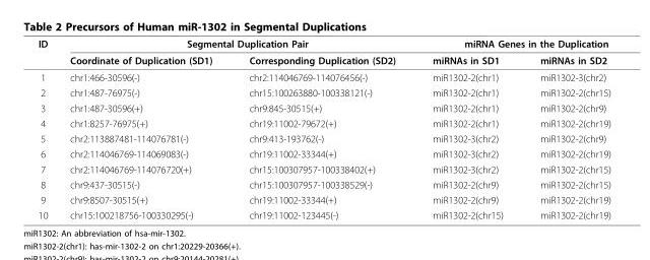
<table><thead><tr><td rowspan="2">ID</td><td colspan="2">Segmental Duplication Pair</td><td colspan="2">miRNA Genes in the Duplication</td></tr><tr><td>Coordinate of Duplication (SD1)</td><td>Corresponding Duplication (SD2)</td><td>miRNAs in SD1</td><td>miRNAs in SD2</td></tr></thead><tbody><tr><td>1</td><td>chr1:466-30596(-)</td><td>chr2:114046769-114076456(-)</td><td>miR1302-2(chr1)</td><td>miR1302-3(chr2)</td></tr><tr><td>2</td><td>chr1:487-76975(-)</td><td>chr15:100263880-100338121(-)</td><td>miR1302-2(chr1)</td><td>miR1302-2(chr15)</td></tr><tr><td>3</td><td>chr1:487-30596(+)</td><td>chr9:845-30515(+)</td><td>miR1302-2(chr1)</td><td>miR1302-2(chr9)</td></tr><tr><td>4</td><td>chr1:8257-76975(+)</td><td>chr19:11002-79672(+)</td><td>miR1302-2(chr1)</td><td>miR1302-2(chr19)</td></tr><tr><td>5</td><td>chr2:113887481-114076781(-)</td><td>chr9:413-193762(-)</td><td>miR1302-3(chr2)</td><td>miR1302-2(chr9)</td></tr><tr><td>6</td><td>chr2:114046769-114069083(-)</td><td>chr19:11002-33344(+)</td><td>miR1302-3(chr2)</td><td>miR1302-2(chr19)</td></tr><tr><td>7</td><td>chr2:114046769-114076720(+)</td><td>chr15:100307957-100338402(+)</td><td>miR1302-3(chr2)</td><td>miR1302-2(chr15)</td></tr><tr><td>8</td><td>chr9:437-30515(-)</td><td>chr15:100307957-100338529(-)</td><td>miR1302-2(chr9)</td><td>miR1302-2(chr15)</td></tr><tr><td>9</td><td>chr9:8507-30515(+)</td><td>chr19:11002-33344(+)</td><td>miR1302-2(chr9)</td><td>miR1302-2(chr19)</td></tr><tr><td>10</td><td>chr15:100218756-100330295(-)</td><td>chr19:11002-123445(-)</td><td>miR1302-2(chr15)</td><td>miR1302-2(chr19)</td></tr></tbody></table>